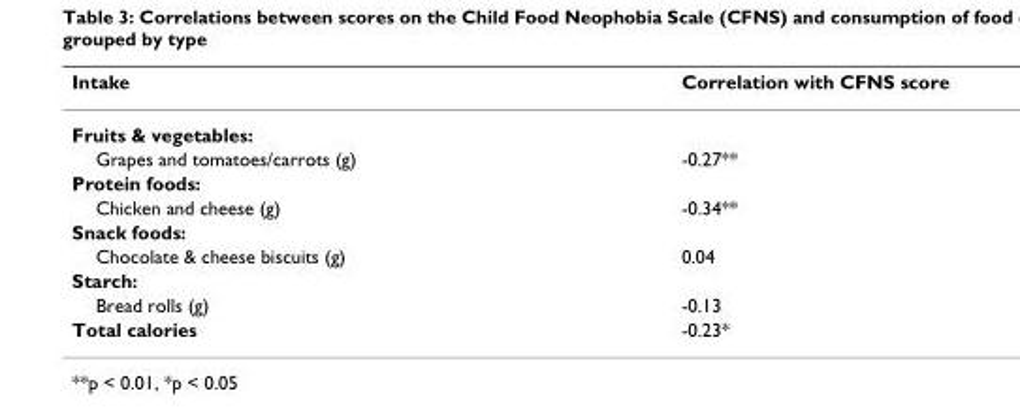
<table><thead><tr><td>Intake</td><td>Correlation with CFNS score</td></tr></thead><tbody><tr><td colspan="2">Fruits &amp; vegetables:</td></tr><tr><td>Grapes and tomatoes/carrots (g)</td><td>-0.27**</td></tr><tr><td colspan="2">Protein foods:</td></tr><tr><td>Chicken and cheese (g)</td><td>-0.34**</td></tr><tr><td colspan="2">Snack foods:</td></tr><tr><td>Chocolate &amp; cheese biscuits (g)</td><td>0.04</td></tr><tr><td colspan="2">Starch:</td></tr><tr><td>Bread rolls (g)</td><td>-0.13</td></tr><tr><td>Total calories</td><td>-0.23*</td></tr></tbody></table>